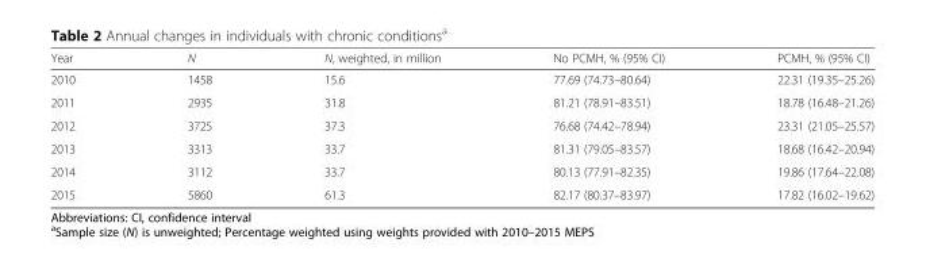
<table><thead><tr><td>Year</td><td>N</td><td>N, weighted, in million</td><td>No PCMH, % (95% CI)</td><td>PCMH, % (95% CI)</td></tr></thead><tbody><tr><td>2010</td><td>1458</td><td>15.6</td><td>77.69 (74.73–80.64)</td><td>22.31 (19.35–25.26)</td></tr><tr><td>2011</td><td>2935</td><td>31.8</td><td>81.21 (78.91–83.51)</td><td>18.78 (16.48–21.26)</td></tr><tr><td>2012</td><td>3725</td><td>37.3</td><td>76.68 (74.42–78.94)</td><td>23.31 (21.05–25.57)</td></tr><tr><td>2013</td><td>3313</td><td>33.7</td><td>81.31 (79.05–83.57)</td><td>18.68 (16.42–20.94)</td></tr><tr><td>2014</td><td>3112</td><td>33.7</td><td>80.13 (77.91–82.35)</td><td>19.86 (17.64–22.08)</td></tr><tr><td>2015</td><td>5860</td><td>61.3</td><td>82.17 (80.37–83.97)</td><td>17.82 (16.02–19.62)</td></tr></tbody></table>